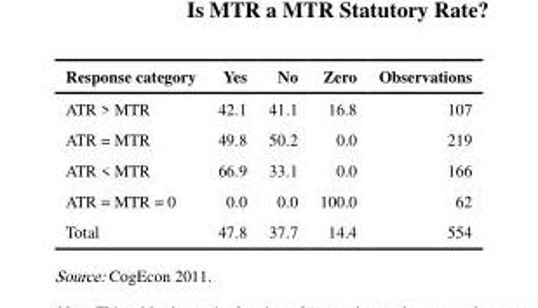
<table><thead><tr><td>Response category</td><td>Yes</td><td>No</td><td>Zero</td><td>Observations</td></tr></thead><tbody><tr><td>ATR &gt; MTR</td><td>42.1</td><td>41.1</td><td>16.8</td><td>107</td></tr><tr><td>ATR = MTR</td><td>49.8</td><td>50.2</td><td>0.0</td><td>219</td></tr><tr><td>ATR &lt; MTR</td><td>66.9</td><td>33.1</td><td>0.0</td><td>166</td></tr><tr><td>ATR = MTR = 0</td><td>0.0</td><td>0.0</td><td>100.0</td><td>62</td></tr><tr><td>Total</td><td>47.8</td><td>37.7</td><td>14.4</td><td>554</td></tr></tbody></table>